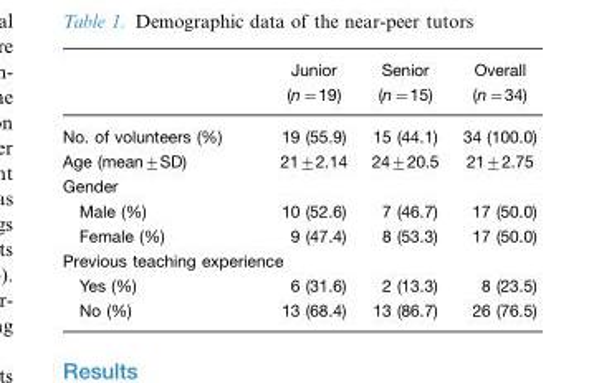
<table><thead><tr><td></td><td>Junior (n=19)</td><td>Senior (n=15)</td><td>Overall (n=34)</td></tr></thead><tbody><tr><td>No. of volunteers (%)</td><td>19 (55.9)</td><td>15 (44.1)</td><td>34 (100.0)</td></tr><tr><td>Age (mean±SD)</td><td>21±2.14</td><td>24±20.5</td><td>21±2.75</td></tr><tr><td colspan="4">Gender</td></tr><tr><td>Male (%)</td><td>10 (52.6)</td><td>7 (46.7)</td><td>17 (50.0)</td></tr><tr><td>Female (%)</td><td>9 (47.4)</td><td>8 (53.3)</td><td>17 (50.0)</td></tr><tr><td colspan="4">Previous teaching experience</td></tr><tr><td>Yes (%)</td><td>6 (31.6)</td><td>2 (13.3)</td><td>8 (23.5)</td></tr><tr><td>No (%)</td><td>13 (68.4)</td><td>13 (86.7)</td><td>26 (76.5)</td></tr></tbody></table>